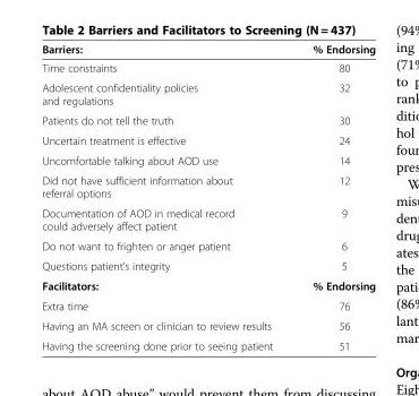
<table><thead><tr><td>Barriers:</td><td>% Endorsing</td></tr></thead><tbody><tr><td>Time constraints</td><td>80</td></tr><tr><td>Adolescent confidentiality policies and regulations</td><td>32</td></tr><tr><td>Patients do not tell the truth</td><td>30</td></tr><tr><td>Uncertain treatment is effective</td><td>24</td></tr><tr><td>Uncomfortable talking about AOD use</td><td>14</td></tr><tr><td>Did not have sufficient information about referral options</td><td>12</td></tr><tr><td>Documentation of AOD in medical record could adversely affect patient</td><td>9</td></tr><tr><td>Do not want to frighten or anger patient</td><td>6</td></tr><tr><td>Questions patient&#x27;s integrity</td><td>5</td></tr><tr><td>Facilitators:</td><td>% Endorsing</td></tr><tr><td>Extra time</td><td>76</td></tr><tr><td>Having an MA screen or clinician to review results</td><td>56</td></tr><tr><td>Having the screening done prior to seeing patient</td><td>51</td></tr></tbody></table>